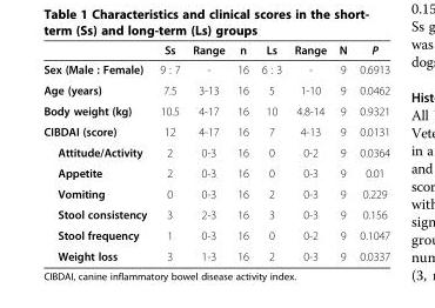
<table><thead><tr><td></td><td>Ss</td><td>Range</td><td>n</td><td>Ls</td><td>Range</td><td>N</td><td>P</td></tr></thead><tbody><tr><td>Sex (Male : Female)</td><td>9 : 7</td><td>-</td><td>16</td><td>6 : 3</td><td>-</td><td>9</td><td>0.6913</td></tr><tr><td>Age (years)</td><td>7.5</td><td>3-13</td><td>16</td><td>5</td><td>1-10</td><td>9</td><td>0.0462</td></tr><tr><td>Body weight (kg)</td><td>10.5</td><td>4-17</td><td>16</td><td>10</td><td>4.8-14</td><td>9</td><td>0.9321</td></tr><tr><td>CIBDAI (score)</td><td>12</td><td>4-17</td><td>16</td><td>7</td><td>4-13</td><td>9</td><td>0.0131</td></tr><tr><td>Attitude/Activity</td><td>2</td><td>0-3</td><td>16</td><td>0</td><td>0-2</td><td>9</td><td>0.0364</td></tr><tr><td>Appetite</td><td>2</td><td>0-3</td><td>16</td><td>0</td><td>0-3</td><td>9</td><td>0.01</td></tr><tr><td>Vomiting</td><td>0</td><td>0-3</td><td>16</td><td>2</td><td>0-3</td><td>9</td><td>0.229</td></tr><tr><td>Stool consistency</td><td>3</td><td>2-3</td><td>16</td><td>3</td><td>0-3</td><td>9</td><td>0.156</td></tr><tr><td>Stool frequency</td><td>1</td><td>0-3</td><td>16</td><td>0</td><td>0-2</td><td>9</td><td>0.1047</td></tr><tr><td>Weight loss</td><td>3</td><td>1-3</td><td>16</td><td>2</td><td>0-3</td><td>9</td><td>0.0337</td></tr></tbody></table>